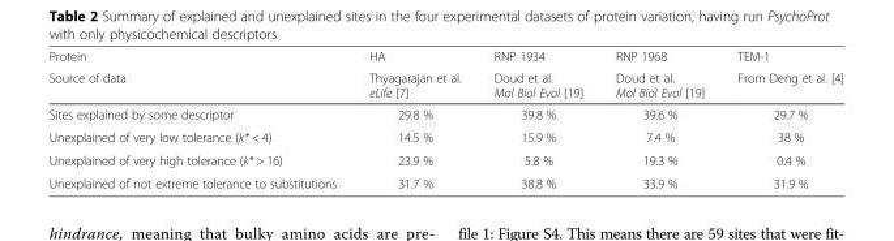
<table><thead><tr><td rowspan="2">Protein Source of data</td><td rowspan="2">HA Thyagarajan et al. eLife [7]</td><td rowspan="2">RNP 1934 Doud et al. Mol Biol Evol [19]</td><td rowspan="2">RNP 1968 Doud et al. Mol Biol Evol [19]</td><td rowspan="2">TEM-1 From Deng et al. [4]</td></tr><tr></tr></thead><tbody><tr><td>Sites explained by some descriptor</td><td>29.8 %</td><td>39.8 %</td><td>39.6 %</td><td>29.7 %</td></tr><tr><td>Unexplained of very low tolerance (k* &lt; 4)</td><td>14.5 %</td><td>15.9 %</td><td>7.4 %</td><td>38 %</td></tr><tr><td>Unexplained of very high tolerance (k* &gt; 16)</td><td>23.9 %</td><td>5.8 %</td><td>19.3 %</td><td>0.4 %</td></tr><tr><td>Unexplained of not extreme tolerance to substitutions</td><td>31.7 %</td><td>38.8 %</td><td>33.9 %</td><td>31.9 %</td></tr></tbody></table>